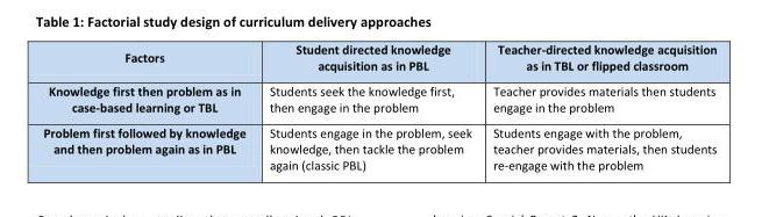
<table><thead><tr><td>Factors</td><td>Student directed knowledge acquisition as in PBL</td><td>Teacher-directed knowledge acquisition as in TBL or flipped classroom</td></tr></thead><tbody><tr><td>Knowledge first then problem as in case-based learning or TBL</td><td>Students seek the knowledge first, then engage in the problem</td><td>Teacher provides materials then students engage in the problem</td></tr><tr><td>Problem first followed by knowledge and then problem again as in PBL</td><td>Students engage in the problem, seek knowledge, then tackle the problem again (classic PBL)</td><td>Students engage with the problem, teacher provides materials, then students re-engage with the problem</td></tr></tbody></table>